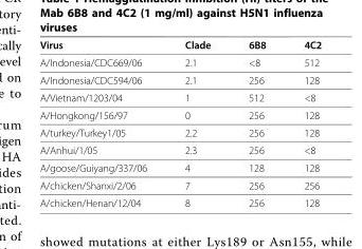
<table><thead><tr><td>Virus</td><td>Clade</td><td>6B8</td><td>4C2</td></tr></thead><tbody><tr><td>A/Indonesia/CDC669/06</td><td>2.1</td><td>&lt;8</td><td>512</td></tr><tr><td>A/Indonesia/CDC594/06</td><td>2.1</td><td>256</td><td>128</td></tr><tr><td>A/Vietnam/1203/04</td><td>1</td><td>512</td><td>&lt;8</td></tr><tr><td>A/Hongkong/156/97</td><td>0</td><td>256</td><td>128</td></tr><tr><td>A/turkey/Turkey1/05</td><td>2.2</td><td>256</td><td>128</td></tr><tr><td>A/Anhui/1/05</td><td>2.3</td><td>256</td><td>&lt;8</td></tr><tr><td>A/goose/Guiyang/337/06</td><td>4</td><td>128</td><td>128</td></tr><tr><td>A/chicken/Shanxi/2/06</td><td>7</td><td>256</td><td>256</td></tr><tr><td>A/chicken/Henan/12/04</td><td>8</td><td>256</td><td>128</td></tr></tbody></table>